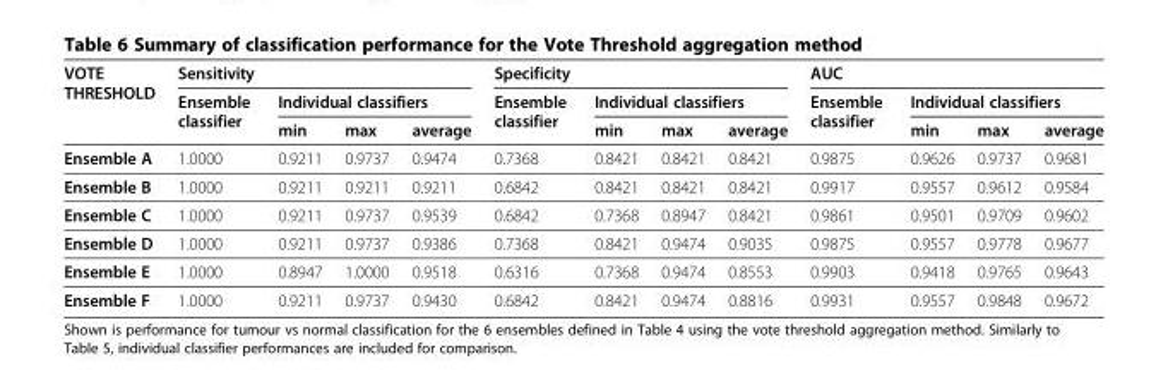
<table><thead><tr><td rowspan="3">VOTE THRESHOLD</td><td colspan="4">Sensitivity</td><td colspan="4">Specificity</td><td colspan="4">AUC</td></tr><tr><td rowspan="2">Ensemble classifier</td><td colspan="3">Individual classifiers</td><td rowspan="2">Ensemble classifier</td><td colspan="3">Individual classifiers</td><td rowspan="2">Ensemble classifier</td><td colspan="3">Individual classifiers</td></tr><tr><td>min</td><td>max</td><td>average</td><td>min</td><td>max</td><td>average</td><td>min</td><td>max</td><td>average</td></tr></thead><tbody><tr><td>Ensemble A</td><td>1.0000</td><td>0.9211</td><td>0.9737</td><td>0.9474</td><td>0.7368</td><td>0.8421</td><td>0.8421</td><td>0.8421</td><td>0.9875</td><td>0.9626</td><td>0.9737</td><td>0.9681</td></tr><tr><td>Ensemble B</td><td>1.0000</td><td>0.9211</td><td>0.9211</td><td>0.9211</td><td>0.6842</td><td>0.8421</td><td>0.8421</td><td>0.8421</td><td>0.9917</td><td>0.9557</td><td>0.9612</td><td>0.9584</td></tr><tr><td>Ensemble C</td><td>1.0000</td><td>0.9211</td><td>0.9737</td><td>0.9539</td><td>0.6842</td><td>0.7368</td><td>0.8947</td><td>0.8421</td><td>0.9861</td><td>0.9501</td><td>0.9709</td><td>0.9602</td></tr><tr><td>Ensemble D</td><td>1.0000</td><td>0.9211</td><td>0.9737</td><td>0.9386</td><td>0.7368</td><td>0.8421</td><td>0.9474</td><td>0.9035</td><td>0.9875</td><td>0.9557</td><td>0.9778</td><td>0.9677</td></tr><tr><td>Ensemble E</td><td>1.0000</td><td>0.8947</td><td>1.0000</td><td>0.9518</td><td>0.6316</td><td>0.7368</td><td>0.9474</td><td>0.8553</td><td>0.9903</td><td>0.9418</td><td>0.9765</td><td>0.9643</td></tr><tr><td>Ensemble F</td><td>1.0000</td><td>0.9211</td><td>0.9737</td><td>0.9430</td><td>0.6842</td><td>0.8421</td><td>0.9474</td><td>0.8816</td><td>0.9931</td><td>0.9557</td><td>0.9848</td><td>0.9672</td></tr></tbody></table>